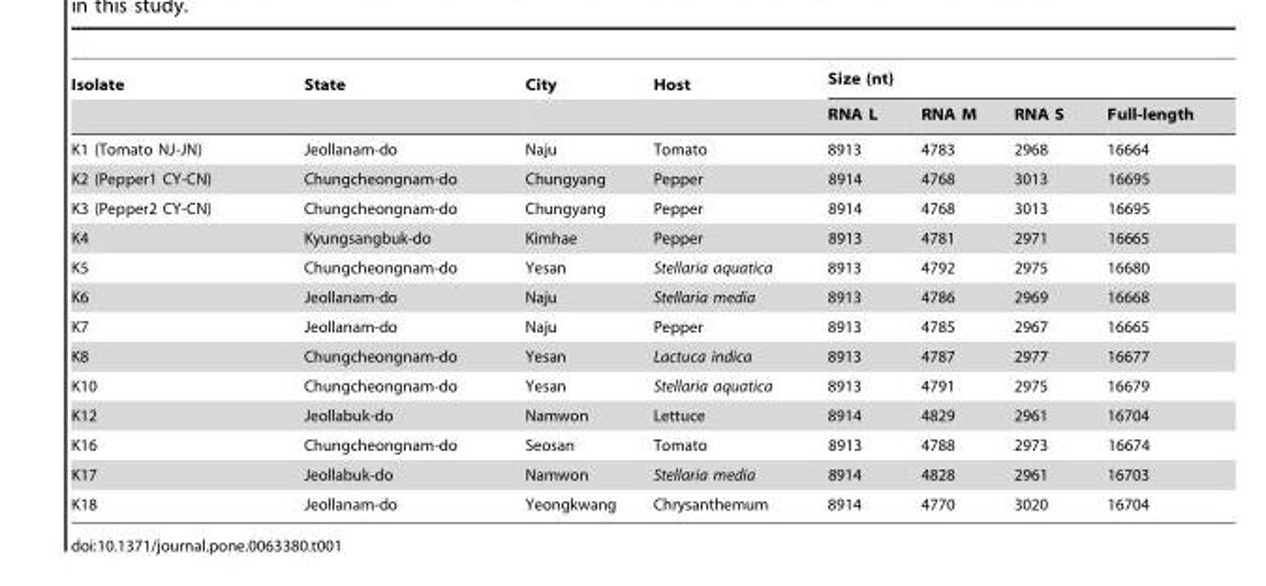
<table><thead><tr><td rowspan="2">Isolate</td><td rowspan="2">State</td><td rowspan="2">City</td><td rowspan="2">Host</td><td colspan="4">Size (nt)</td></tr><tr><td>RNA L</td><td>RNA M</td><td>RNA S</td><td>Full-length</td></tr></thead><tbody><tr><td>K1 (Tomato NJ-JN)</td><td>Jeollanam-do</td><td>Naju</td><td>Tomato</td><td>8913</td><td>4783</td><td>2968</td><td>16664</td></tr><tr><td>K2 (Pepper1 CY-CN)</td><td>Chungcheongnam-do</td><td>Chungyang</td><td>Pepper</td><td>8914</td><td>4768</td><td>3013</td><td>16695</td></tr><tr><td>K3 (Pepper2 CY-CN)</td><td>Chungcheongnam-do</td><td>Chungyang</td><td>Pepper</td><td>8914</td><td>4768</td><td>3013</td><td>16695</td></tr><tr><td>K4</td><td>Kyungsangbuk-do</td><td>Kimhae</td><td>Pepper</td><td>8913</td><td>4781</td><td>2971</td><td>16665</td></tr><tr><td>K5</td><td>Chungcheongnam-do</td><td>Yesan</td><td>Stellaria aquatica</td><td>8913</td><td>4792</td><td>2975</td><td>16680</td></tr><tr><td>K6</td><td>Jeollanam-do</td><td>Naju</td><td>Stellaria media</td><td>8913</td><td>4786</td><td>2969</td><td>16668</td></tr><tr><td>K7</td><td>Jeollanam-do</td><td>Naju</td><td>Pepper</td><td>8913</td><td>4785</td><td>2967</td><td>16665</td></tr><tr><td>K8</td><td>Chungcheongnam-do</td><td>Yesan</td><td>Lactuca indica</td><td>8913</td><td>4787</td><td>2977</td><td>16677</td></tr><tr><td>K10</td><td>Chungcheongnam-do</td><td>Yesan</td><td>Stellaria aquatica</td><td>8913</td><td>4791</td><td>2975</td><td>16679</td></tr><tr><td>K12</td><td>Jeollabuk-do</td><td>Namwon</td><td>Lettuce</td><td>8914</td><td>4829</td><td>2961</td><td>16704</td></tr><tr><td>K16</td><td>Chungcheongnam-do</td><td>Seosan</td><td>Tomato</td><td>8913</td><td>4788</td><td>2973</td><td>16674</td></tr><tr><td>K17</td><td>Jeollabuk-do</td><td>Namwon</td><td>Stellaria media</td><td>8914</td><td>4828</td><td>2961</td><td>16703</td></tr><tr><td>K18</td><td>Jeollanam-do</td><td>Yeongkwang</td><td>Chrysanthemum</td><td>8914</td><td>4770</td><td>3020</td><td>16704</td></tr></tbody></table>